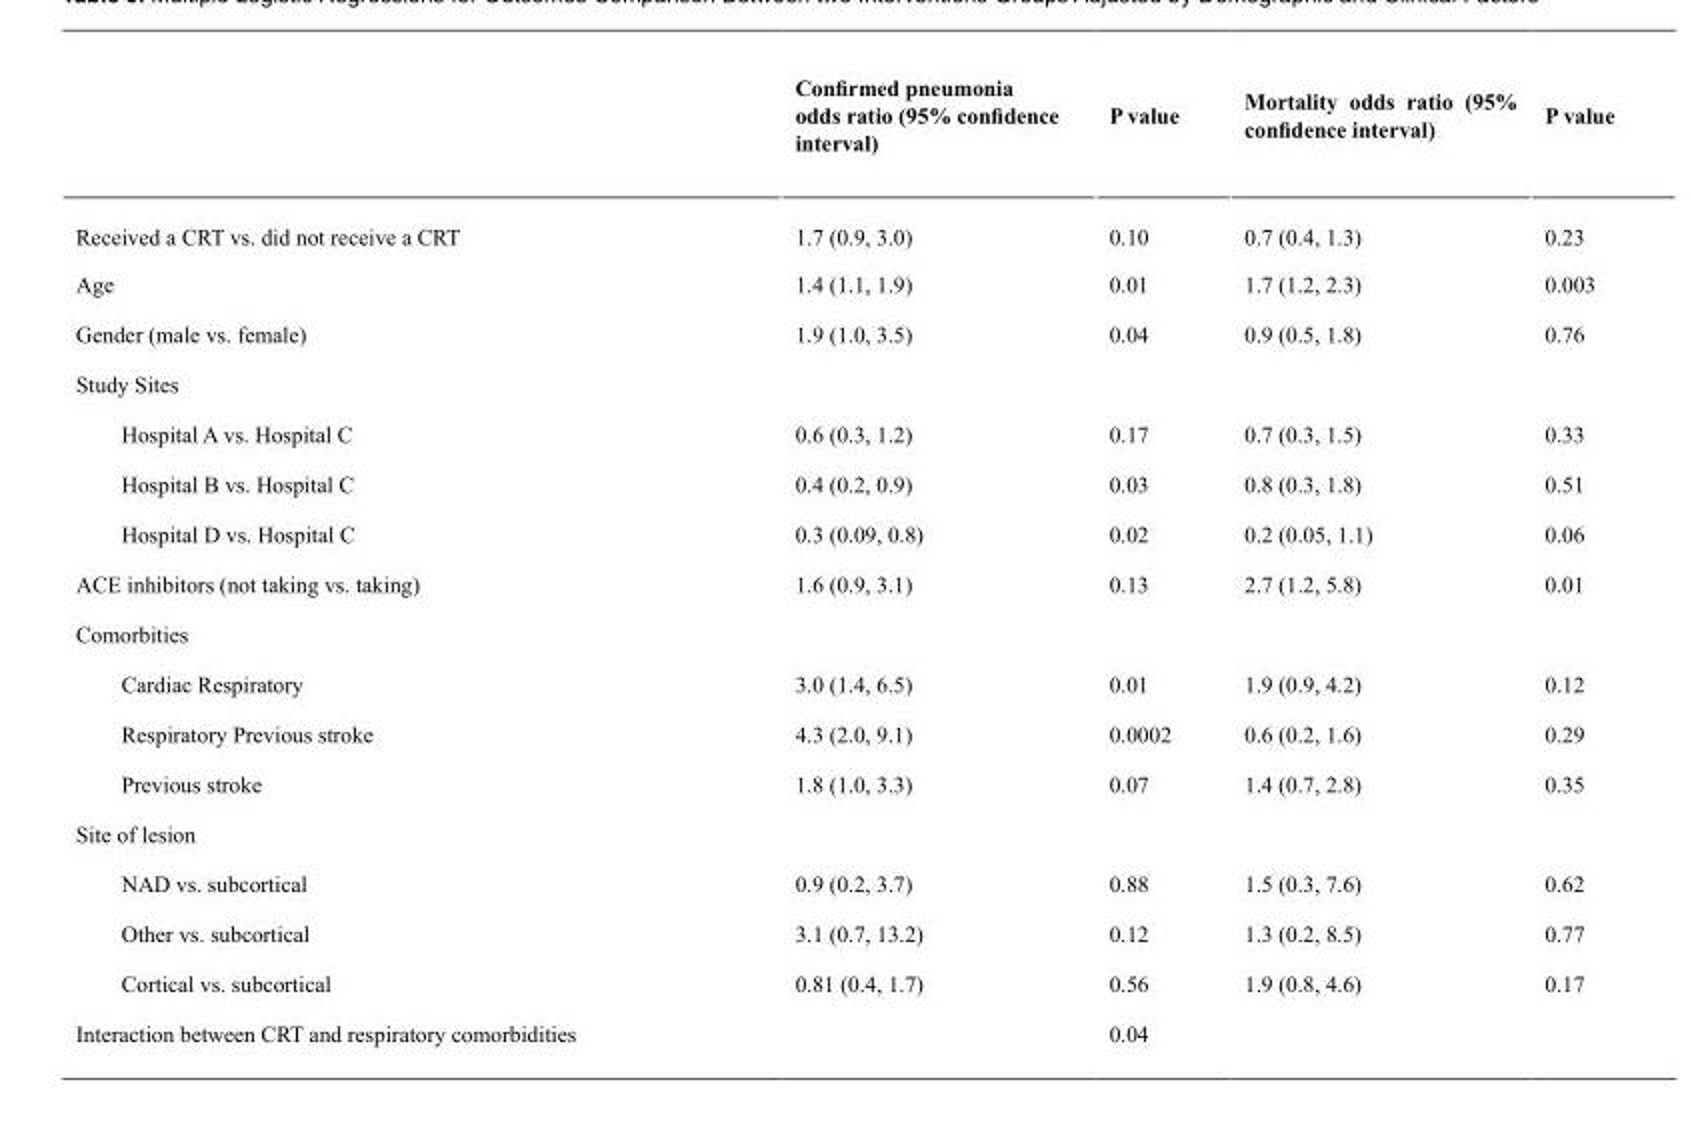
<table><thead><tr><td></td><td>Confirmed pneumonia odds ratio (95% confidence interval)</td><td>P value</td><td>Mortality odds ratio (95% confidence interval)</td><td>P value</td></tr></thead><tbody><tr><td>Received a CRT vs. did not receive a CRT</td><td>1.7 (0.9, 3.0)</td><td>0.10</td><td>0.7 (0.4, 1.3)</td><td>0.23</td></tr><tr><td>Age</td><td>1.4 (1.1, 1.9)</td><td>0.01</td><td>1.7 (1.2, 2.3)</td><td>0.003</td></tr><tr><td>Gender (male vs. female)</td><td>1.9 (1.0, 3.5)</td><td>0.04</td><td>0.9 (0.5, 1.8)</td><td>0.76</td></tr><tr><td colspan="5">Study Sites</td></tr><tr><td>Hospital A vs. Hospital C</td><td>0.6 (0.3, 1.2)</td><td>0.17</td><td>0.7 (0.3, 1.5)</td><td>0.33</td></tr><tr><td>Hospital B vs. Hospital C</td><td>0.4 (0.2, 0.9)</td><td>0.03</td><td>0.8 (0.3, 1.8)</td><td>0.51</td></tr><tr><td>Hospital D vs. Hospital C</td><td>0.3 (0.09, 0.8)</td><td>0.02</td><td>0.2 (0.05, 1.1)</td><td>0.06</td></tr><tr><td>ACE inhibitors (not taking vs. taking)</td><td>1.6 (0.9, 3.1)</td><td>0.13</td><td>2.7 (1.2, 5.8)</td><td>0.01</td></tr><tr><td colspan="5">Comorbities</td></tr><tr><td>Cardiac Respiratory</td><td>3.0 (1.4, 6.5)</td><td>0.01</td><td>1.9 (0.9, 4.2)</td><td>0.12</td></tr><tr><td>Respiratory Previous stroke</td><td>4.3 (2.0, 9.1)</td><td>0.0002</td><td>0.6 (0.2, 1.6)</td><td>0.29</td></tr><tr><td>Previous stroke</td><td>1.8 (1.0, 3.3)</td><td>0.07</td><td>1.4 (0.7, 2.8)</td><td>0.35</td></tr><tr><td colspan="5">Site of lesion</td></tr><tr><td>NAD vs. subcortical</td><td>0.9 (0.2, 3.7)</td><td>0.88</td><td>1.5 (0.3, 7.6)</td><td>0.62</td></tr><tr><td>Other vs. subcortical</td><td>3.1 (0.7, 13.2)</td><td>0.12</td><td>1.3 (0.2, 8.5)</td><td>0.77</td></tr><tr><td>Cortical vs. subcortical</td><td>0.81 (0.4, 1.7)</td><td>0.56</td><td>1.9 (0.8, 4.6)</td><td>0.17</td></tr><tr><td>Interaction between CRT and respiratory comorbidities</td><td></td><td>0.04</td><td></td><td></td></tr></tbody></table>